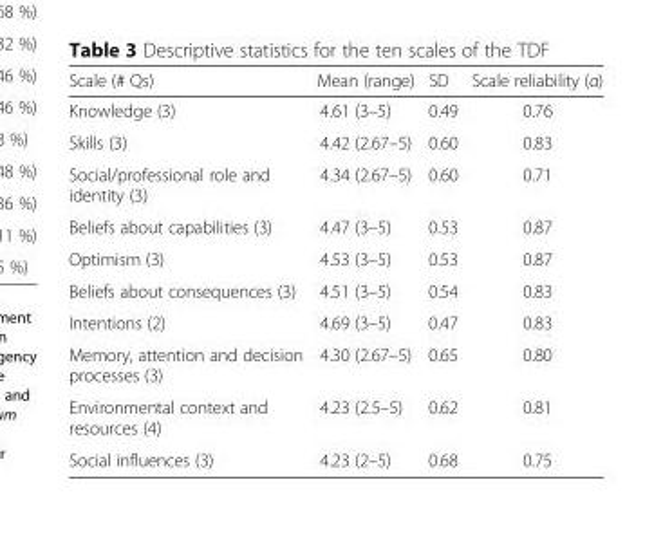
<table><thead><tr><td>Scale (# Qs)</td><td>Mean (range)</td><td>SD</td><td>Scale reliability (α)</td></tr></thead><tbody><tr><td>Knowledge (3)</td><td>4.61 (3–5)</td><td>0.49</td><td>0.76</td></tr><tr><td>Skills (3)</td><td>4.42 (2.67–5)</td><td>0.60</td><td>0.83</td></tr><tr><td>Social/professional role and identity (3)</td><td>4.34 (2.67–5)</td><td>0.60</td><td>0.71</td></tr><tr><td>Beliefs about capabilities (3)</td><td>4.47 (3–5)</td><td>0.53</td><td>0.87</td></tr><tr><td>Optimism (3)</td><td>4.53 (3–5)</td><td>0.53</td><td>0.87</td></tr><tr><td>Beliefs about consequences (3)</td><td>4.51 (3–5)</td><td>0.54</td><td>0.83</td></tr><tr><td>Intentions (2)</td><td>4.69 (3–5)</td><td>0.47</td><td>0.83</td></tr><tr><td>Memory, attention and decision processes (3)</td><td>4.30 (2.67–5)</td><td>0.65</td><td>0.80</td></tr><tr><td>Environmental context and resources (4)</td><td>4.23 (2.5–5)</td><td>0.62</td><td>0.81</td></tr><tr><td>Social influences (3)</td><td>4.23 (2–5)</td><td>0.68</td><td>0.75</td></tr></tbody></table>